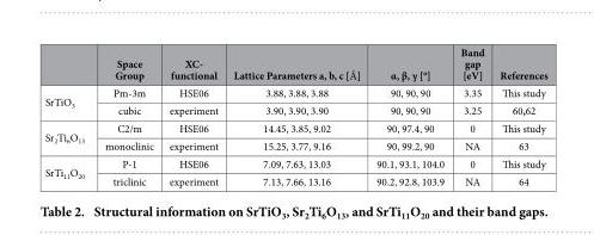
<table><thead><tr><td></td><td>Space Group</td><td>XC- functional</td><td>Lattice Parameters a, b, c [Å]</td><td>α, β, γ [<sup>o</sup>]</td><td>Band gap [eV]</td><td>References</td></tr></thead><tbody><tr><td rowspan="2">SrTiO<sub>3</sub></td><td>Pm-3m</td><td>HSE06</td><td>3.88, 3.88, 3.88</td><td>90, 90, 90</td><td>3.35</td><td>This study</td></tr><tr><td>cubic</td><td>experiment</td><td>3.90, 3.90, 3.90</td><td>90, 90, 90</td><td>3.25</td><td>60,62</td></tr><tr><td rowspan="2">Sr<sub>2</sub>Ti<sub>6</sub>O<sub>13</sub></td><td>C2/m</td><td>HSE06</td><td>14.45, 3.85, 9.02</td><td>90, 97.4, 90</td><td>0</td><td>This study</td></tr><tr><td>monoclinic</td><td>experiment</td><td>15.25, 3.77, 9.16</td><td>90, 99.2, 90</td><td>NA</td><td>63</td></tr><tr><td rowspan="2">SrTi<sub>11</sub>O<sub>20</sub></td><td>P-1</td><td>HSE06</td><td>7.09, 7.63, 13.03</td><td>90.1, 93.1, 104.0</td><td>0</td><td>This study</td></tr><tr><td>triclinic</td><td>experiment</td><td>7.13, 7.66, 13.16</td><td>90.2, 92.8, 103.9</td><td>NA</td><td>64</td></tr></tbody></table>